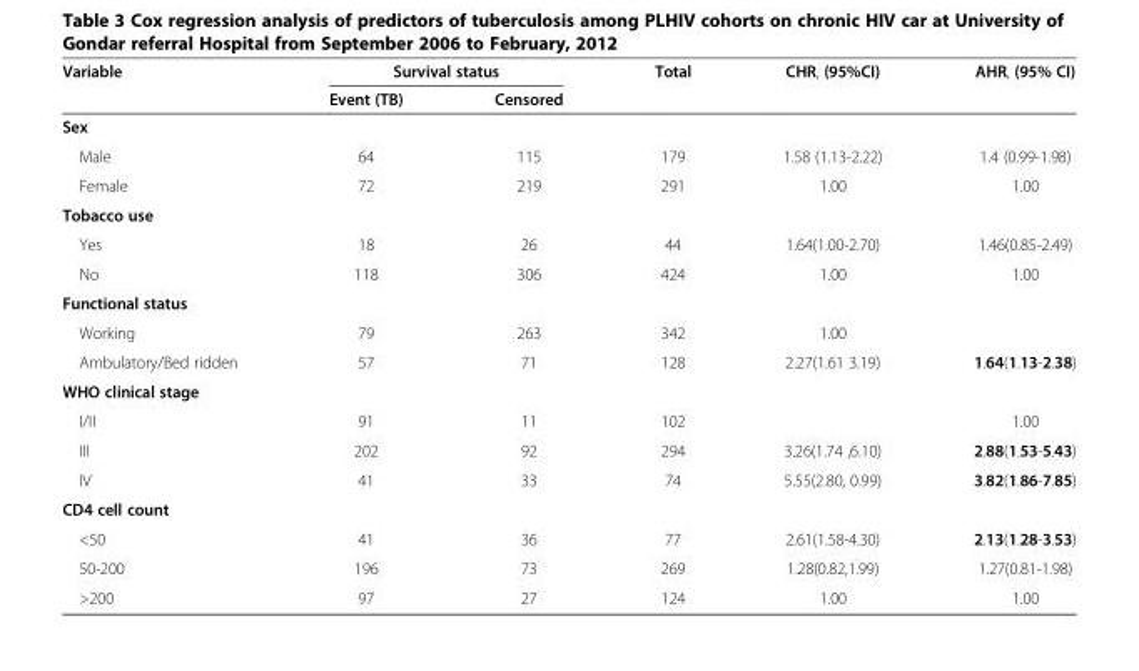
<table><thead><tr><td rowspan="2">Variable</td><td colspan="2">Survival status</td><td rowspan="2">Total</td><td rowspan="2">CHR, (95%CI)</td><td rowspan="2">AHR, (95% CI)</td></tr><tr><td>Event (TB)</td><td>Censored</td></tr></thead><tbody><tr><td colspan="6">Sex</td></tr><tr><td>Male</td><td>64</td><td>115</td><td>179</td><td>1.58 (1.13-2.22)</td><td>1.4 (0.99-1.98)</td></tr><tr><td>Female</td><td>72</td><td>219</td><td>291</td><td>1.00</td><td>1.00</td></tr><tr><td colspan="6">Tobacco use</td></tr><tr><td>Yes</td><td>18</td><td>26</td><td>44</td><td>1.64(1.00-2.70)</td><td>1.46(0.85-2.49)</td></tr><tr><td>No</td><td>118</td><td>306</td><td>424</td><td>1.00</td><td>1.00</td></tr><tr><td colspan="6">Functional status</td></tr><tr><td>Working</td><td>79</td><td>263</td><td>342</td><td>1.00</td><td></td></tr><tr><td>Ambulatory/Bed ridden</td><td>57</td><td>71</td><td>128</td><td>2.27(1.61 3.19)</td><td>1.64(1.13-2.38)</td></tr><tr><td colspan="6">WHO clinical stage</td></tr><tr><td>I/II</td><td>91</td><td>11</td><td>102</td><td></td><td>1.00</td></tr><tr><td>III</td><td>202</td><td>92</td><td>294</td><td>3.26(1.74 ,6.10)</td><td>2.88(1.53-5.43)</td></tr><tr><td>IV</td><td>41</td><td>33</td><td>74</td><td>5.55(2.80, 0.99)</td><td>3.82(1.86-7.85)</td></tr><tr><td colspan="6">CD4 cell count</td></tr><tr><td>&lt;50</td><td>41</td><td>36</td><td>77</td><td>2.61(1.58-4.30)</td><td>2.13(1.28-3.53)</td></tr><tr><td>50-200</td><td>196</td><td>73</td><td>269</td><td>1.28(0.82,1.99)</td><td>1.27(0.81-1.98)</td></tr><tr><td>&gt;200</td><td>97</td><td>27</td><td>124</td><td>1.00</td><td>1.00</td></tr></tbody></table>